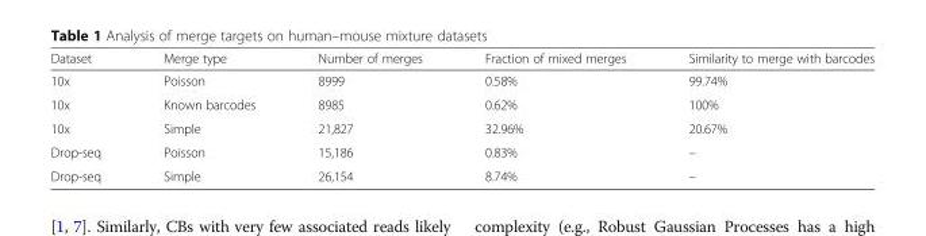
<table><thead><tr><td>Dataset</td><td>Merge type</td><td>Number of merges</td><td>Fraction of mixed merges</td><td>Similarity to merge with barcodes</td></tr></thead><tbody><tr><td>10x</td><td>Poisson</td><td>8999</td><td>0.58%</td><td>99.74%</td></tr><tr><td>10x</td><td>Known barcodes</td><td>8985</td><td>0.62%</td><td>100%</td></tr><tr><td>10x</td><td>Simple</td><td>21,827</td><td>32.96%</td><td>20.67%</td></tr><tr><td>Drop-seq</td><td>Poisson</td><td>15,186</td><td>0.83%</td><td>–</td></tr><tr><td>Drop-seq</td><td>Simple</td><td>26,154</td><td>8.74%</td><td>–</td></tr></tbody></table>